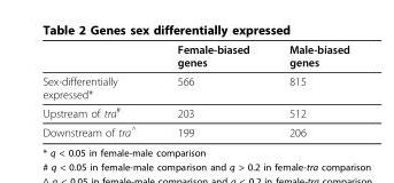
<table><thead><tr><td></td><td>Female-biased genes</td><td>Male-biased genes</td></tr></thead><tbody><tr><td>Sex-differentially expressed*</td><td>566</td><td>815</td></tr><tr><td>Upstream of tra<sup>#</sup></td><td>203</td><td>512</td></tr><tr><td>Downstream of tra<sup>^</sup></td><td>199</td><td>206</td></tr></tbody></table>